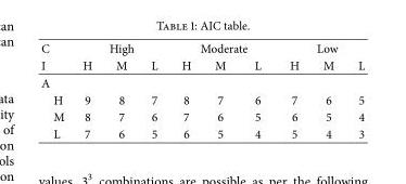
<table><thead><tr><td rowspan="2">C I</td><td colspan="3">High</td><td colspan="3">Moderate</td><td colspan="3">Low</td></tr><tr><td>H</td><td>M</td><td>L</td><td>H</td><td>M</td><td>L</td><td>H</td><td>M</td><td>L</td></tr></thead><tbody><tr><td colspan="10">A</td></tr><tr><td>H</td><td>9</td><td>8</td><td>7</td><td>8</td><td>7</td><td>6</td><td>7</td><td>6</td><td>5</td></tr><tr><td>M</td><td>8</td><td>7</td><td>6</td><td>7</td><td>6</td><td>5</td><td>6</td><td>5</td><td>4</td></tr><tr><td>L</td><td>7</td><td>6</td><td>5</td><td>6</td><td>5</td><td>4</td><td>5</td><td>4</td><td>3</td></tr></tbody></table>